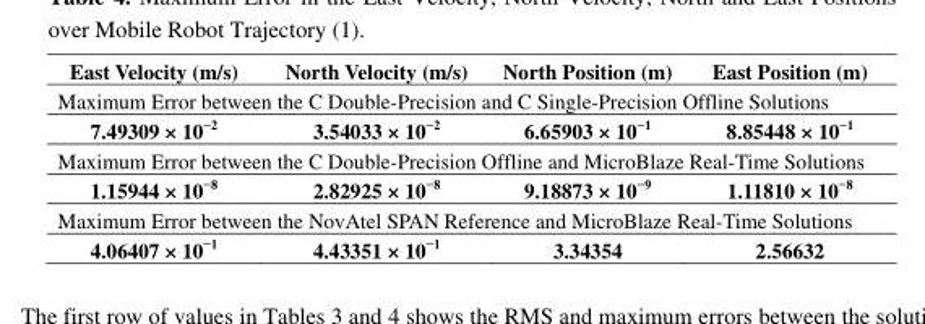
<table><thead><tr><td>East Velocity (m/s)</td><td>North Velocity (m/s)</td><td>North Position (m)</td><td>East Position (m)</td></tr></thead><tbody><tr><td colspan="4">Maximum Error between the C Double-Precision and C Single-Precision Offline Solutions</td></tr><tr><td>7.49309 × 10<sup>−2</sup></td><td>3.54033 × 10<sup>−2</sup></td><td>6.65903 × 10<sup>−1</sup></td><td>8.85448 × 10<sup>−1</sup></td></tr><tr><td colspan="4">Maximum Error between the C Double-Precision Offline and MicroBlaze Real-Time Solutions</td></tr><tr><td>1.15944 × 10<sup>−8</sup></td><td>2.82925 × 10<sup>−8</sup></td><td>9.18873 × 10<sup>−9</sup></td><td>1.11810 × 10<sup>−8</sup></td></tr><tr><td colspan="4">Maximum Error between the NovAtel SPAN Reference and MicroBlaze Real-Time Solutions</td></tr><tr><td>4.06407 × 10<sup>−1</sup></td><td>4.43351 × 10<sup>−1</sup></td><td>3.34354</td><td>2.56632</td></tr></tbody></table>